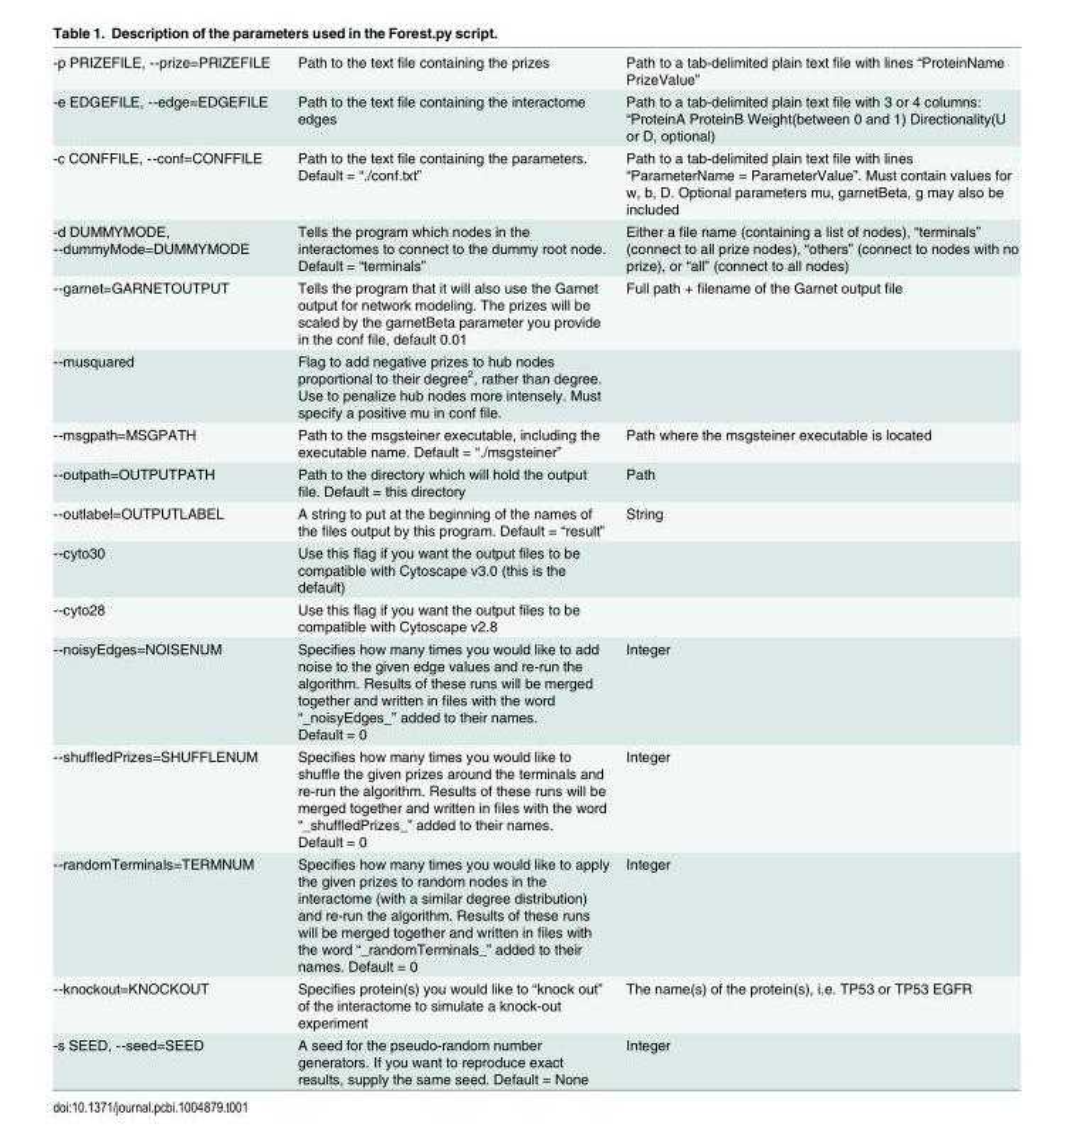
<table><tbody><tr><td>-p PRIZEFILE, --prize=PRIZEFILE</td><td>Path to the text file containing the prizes</td><td>Path to a tab-delimited plain text file with lines “ProteinName PrizeValue”</td></tr><tr><td>-e EDGEFILE, --edge=EDGEFILE</td><td>Path to the text file containing the interactome edges</td><td>Path to a tab-delimited plain text file with 3 or 4 columns: “ProteinA ProteinB Weight(between 0 and 1) Directionality(U or D, optional)</td></tr><tr><td>-c CONFFILE, --conf=CONFFILE</td><td>Path to the text file containing the parameters. Default = “./conf.txt”</td><td>Path to a tab-delimited plain text file with lines “ParameterName = ParameterValue”. Must contain values for w, b, D. Optional parameters mu, garnetBeta, g may also be included</td></tr><tr><td>-d DUMMYMODE, --dummyMode=DUMMYMODE</td><td>Tells the program which nodes in the interactomes to connect to the dummy root node. Default = “terminals”</td><td>Either a file name (containing a list of nodes), “terminals” (connect to all prize nodes), “others” (connect to nodes with no prize), or “all” (connect to all nodes)</td></tr><tr><td>--garnet=GARNETOUTPUT</td><td>Tells the program that it will also use the Garnet output for network modeling. The prizes will be scaled by the garnetBeta parameter you provide in the conf file, default 0.01</td><td>Full path + filename of the Garnet output file</td></tr><tr><td>--musquared</td><td>Flag to add negative prizes to hub nodes proportional to their degree<sup>2</sup>, rather than degree. Use to penalize hub nodes more intensely. Must specify a positive mu in conf file.</td><td></td></tr><tr><td>--msgpath=MSGPATH</td><td>Path to the msgsteiner executable, including the executable name. Default = “./msgsteiner”</td><td>Path where the msgsteiner executable is located</td></tr><tr><td>--outpath=OUTPUTPATH</td><td>Path to the directory which will hold the output file. Default = this directory</td><td>Path</td></tr><tr><td>--outlabel=OUTPUTLABEL</td><td>A string to put at the beginning of the names of the files output by this program. Default = “result”</td><td>String</td></tr><tr><td>--cyto30</td><td>Use this flag if you want the output files to be compatible with Cytoscape v3.0 (this is the default)</td><td></td></tr><tr><td>--cyto28</td><td>Use this flag if you want the output files to be compatible with Cytoscape v2.8</td><td></td></tr><tr><td>--noisyEdges=NOISENUM</td><td>Specifies how many times you would like to add noise to the given edge values and re-run the algorithm. Results of these runs will be merged together and written in files with the word “_noisyEdges_” added to their names. Default = 0</td><td>Integer</td></tr><tr><td>--shuffledPrizes=SHUFFLENUM</td><td>Specifies how many times you would like to shuffle the given prizes around the terminals and re-run the algorithm. Results of these runs will be merged together and written in files with the word “_shuffledPrizes_” added to their names. Default = 0</td><td>Integer</td></tr><tr><td>--randomTerminals=TERMNUM</td><td>Specifies how many times you would like to apply the given prizes to random nodes in the interactome (with a similar degree distribution) and re-run the algorithm. Results of these runs will be merged together and written in files with the word “_randomTerminals_” added to their names. Default = 0</td><td>Integer</td></tr><tr><td>--knockout=KNOCKOUT</td><td>Specifies protein(s) you would like to “knock out” of the interactome to simulate a knock-out experiment</td><td>The name(s) of the protein(s), i.e. TP53 or TP53 EGFR</td></tr><tr><td>-s SEED, --seed=SEED</td><td>A seed for the pseudo-random number generators. If you want to reproduce exact results, supply the same seed. Default = None</td><td>Integer</td></tr></tbody></table>